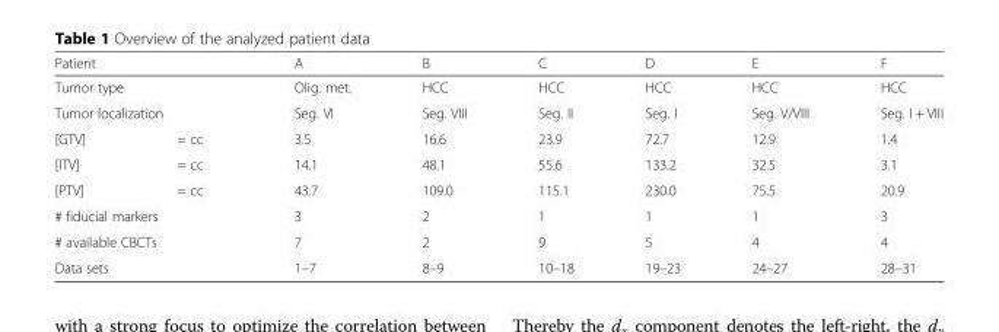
<table><thead><tr><td rowspan="3" colspan="2">Patient Tumor type Tumor localization</td><td rowspan="4">A Olig. met. Seg. VI 3.5</td><td rowspan="4">B HCC Seg. VIII 16.6</td><td rowspan="4">C HCC Seg. II 23.9</td><td rowspan="4">D HCC Seg. I 72.7</td><td rowspan="4">E HCC Seg. V/VIII 12.9</td><td rowspan="4">F HCC Seg. I + VIII 1.4</td></tr><tr></tr><tr></tr><tr><td>[GTV]</td><td>= cc</td></tr></thead><tbody><tr><td>[ITV]</td><td>= cc</td><td>14.1</td><td>48.1</td><td>55.6</td><td>133.2</td><td>32.5</td><td>3.1</td></tr><tr><td>[PTV]</td><td>= cc</td><td>43.7</td><td>109.0</td><td>115.1</td><td>230.0</td><td>75.5</td><td>20.9</td></tr><tr><td colspan="2"># fiducial markers</td><td>3</td><td>2</td><td>1</td><td>1</td><td>1</td><td>3</td></tr><tr><td colspan="2"># available CBCTs</td><td>7</td><td>2</td><td>9</td><td>5</td><td>4</td><td>4</td></tr><tr><td colspan="2">Data sets</td><td>1–7</td><td>8–9</td><td>10–18</td><td>19–23</td><td>24–27</td><td>28–31</td></tr></tbody></table>